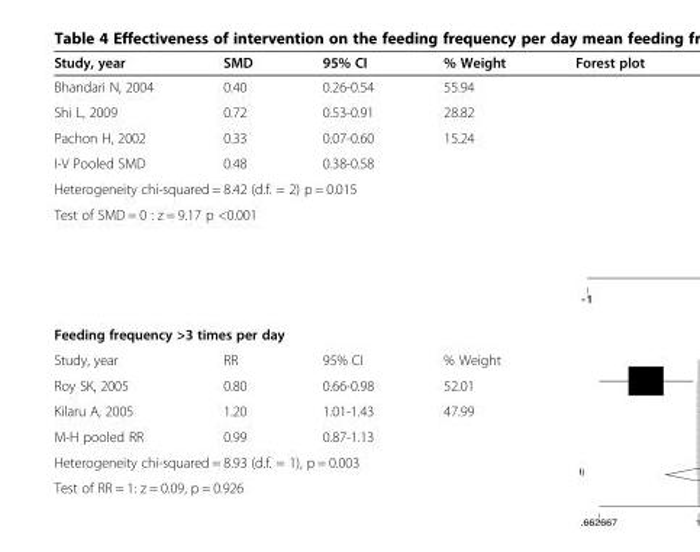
<table><thead><tr><td>Study, year</td><td>SMD</td><td>95% CI</td><td>% Weight</td><td>Forest plot</td></tr></thead><tbody><tr><td>Bhandari N, 2004</td><td>0.40</td><td>0.26-0.54</td><td>55.94</td><td rowspan="6"></td></tr><tr><td>Shi L, 2009</td><td>0.72</td><td>0.53-0.91</td><td>28.82</td></tr><tr><td>Pachon H, 2002</td><td>0.33</td><td>0.07-0.60</td><td rowspan="2">15.24</td></tr><tr><td>I-V Pooled SMD</td><td>0.48</td><td>0.38-0.58</td></tr><tr><td colspan="4">Heterogeneity chi-squared = 8.42 (d.f. = 2) p = 0.015</td></tr><tr><td colspan="4">Test of SMD = 0 : z = 9.17 p &lt;0.001</td></tr><tr><td colspan="5">Feeding frequency &gt;3 times per day</td></tr><tr><td>Study, year</td><td>RR</td><td>95% CI</td><td>% Weight</td><td></td></tr><tr><td>Roy SK, 2005</td><td>0.80</td><td>0.66-0.98</td><td>52.01</td><td rowspan="4"></td></tr><tr><td>Kilaru A, 2005</td><td>1.20</td><td>1.01-1.43</td><td rowspan="2">47.99</td></tr><tr><td>M-H pooled RR</td><td>0.99</td><td>0.87-1.13</td></tr><tr><td colspan="4">Heterogeneity chi-squared = 8.93 (d.f. = 1), p = 0.003</td></tr><tr><td colspan="4">Test of RR = 1: z = 0.09, p = 0.926</td><td></td></tr></tbody></table>